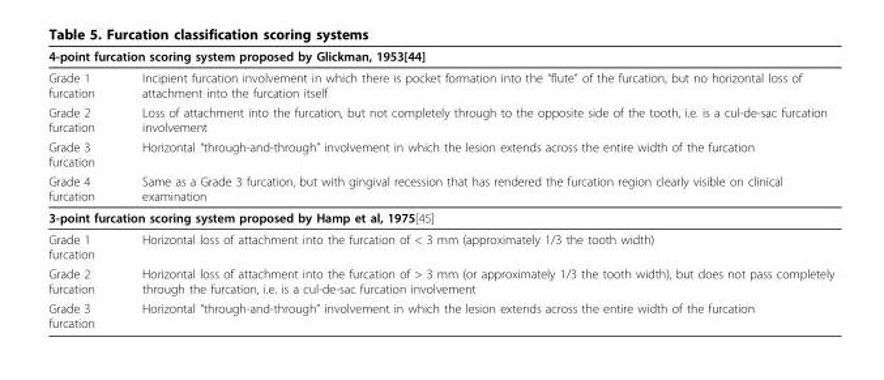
<table><thead><tr><td colspan="2">4-point furcation scoring system proposed by Glickman, 1953[44]</td></tr><tr><td>Grade 1 furcation</td><td>Incipient furcation involvement in which there is pocket formation into the “flute” of the furcation, but no horizontal loss of attachment into the furcation itself</td></tr></thead><tbody><tr><td>Grade 2 furcation</td><td>Loss of attachment into the furcation, but not completely through to the opposite side of the tooth, i.e. is a cul-de-sac furcation involvement</td></tr><tr><td>Grade 3 furcation</td><td>Horizontal “through-and-through” involvement in which the lesion extends across the entire width of the furcation</td></tr><tr><td>Grade 4 furcation</td><td>Same as a Grade 3 furcation, but with gingival recession that has rendered the furcation region clearly visible on clinical examination</td></tr><tr><td colspan="2">3-point furcation scoring system proposed by Hamp et al, 1975[45]</td></tr><tr><td>Grade 1 furcation</td><td>Horizontal loss of attachment into the furcation of &lt; 3 mm (approximately 1/3 the tooth width)</td></tr><tr><td>Grade 2 furcation</td><td>Horizontal loss of attachment into the furcation of &gt; 3 mm (or approximately 1/3 the tooth width), but does not pass completely through the furcation, i.e. is a cul-de-sac furcation involvement</td></tr><tr><td>Grade 3 furcation</td><td>Horizontal “through-and-through” involvement in which the lesion extends across the entire width of the furcation</td></tr></tbody></table>